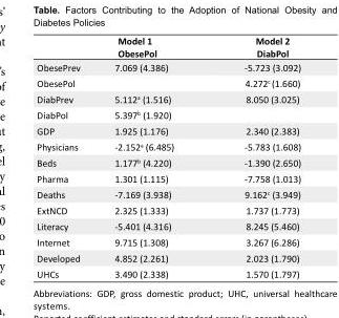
<table><thead><tr><td></td><td>Model 1 ObesePol</td><td>Model 2 DiabPol</td></tr></thead><tbody><tr><td>ObesePrev</td><td>7.069 (4.386)</td><td>-5.723 (3.092)</td></tr><tr><td>ObesePol</td><td></td><td>4.272<sup>c</sup> (1.660)</td></tr><tr><td>DiabPrev</td><td>5.112<sup>a</sup> (1.516)</td><td>8.050 (3.025)</td></tr><tr><td>DiabPol</td><td>5.397<sup>b</sup> (1.920)</td><td></td></tr><tr><td>GDP</td><td>1.925 (1.176)</td><td>2.340 (2.383)</td></tr><tr><td>Physicians</td><td>-2.152<sup>a</sup> (6.485)</td><td>-5.783 (1.608)</td></tr><tr><td>Beds</td><td>1.177<sup>b</sup> (4.220)</td><td>-1.390 (2.650)</td></tr><tr><td>Pharma</td><td>1.301 (1.115)</td><td>-7.758 (1.013)</td></tr><tr><td>Deaths</td><td>-7.169 (3.938)</td><td>9.162<sup>c</sup> (3.949)</td></tr><tr><td>ExtNCD</td><td>2.325 (1.333)</td><td>1.737 (1.773)</td></tr><tr><td>Literacy</td><td>-5.401 (4.316)</td><td>8.245 (5.460)</td></tr><tr><td>Internet</td><td>9.715 (1.308)</td><td>3.267 (6.286)</td></tr><tr><td>Developed</td><td>4.852 (2.261)</td><td>2.023 (1.790)</td></tr><tr><td>UHCs</td><td>3.490 (2.338)</td><td>1.570 (1.797)</td></tr></tbody></table>